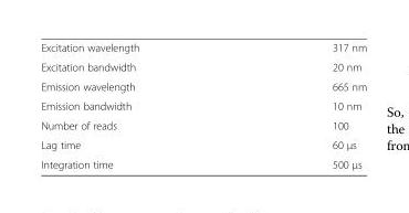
<table><tbody><tr><td>Excitation wavelength</td><td>317 nm</td></tr><tr><td>Excitation bandwidth</td><td>20 nm</td></tr><tr><td>Emission wavelength</td><td>665 nm</td></tr><tr><td>Emission bandwidth</td><td>10 nm</td></tr><tr><td>Number of reads</td><td>100</td></tr><tr><td>Lag time</td><td>60 μs</td></tr><tr><td>Integration time</td><td>500 μs</td></tr></tbody></table>